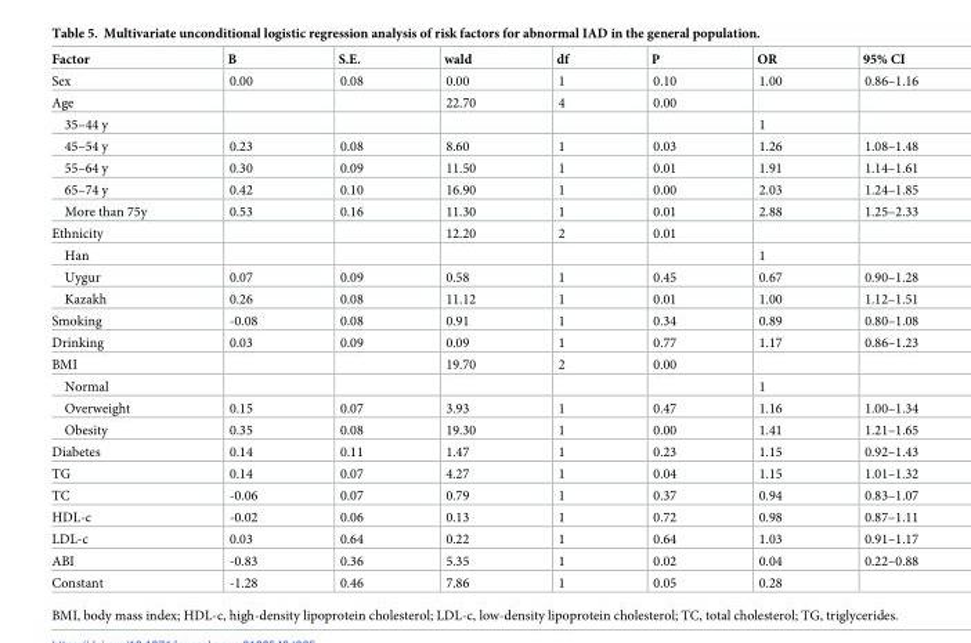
<table><thead><tr><td>Factor</td><td>B</td><td>S.E.</td><td>wald</td><td>df</td><td>P</td><td>OR</td><td>95% CI</td></tr></thead><tbody><tr><td>Sex</td><td>0.00</td><td>0.08</td><td>0.00</td><td>1</td><td>0.10</td><td>1.00</td><td>0.86–1.16</td></tr><tr><td>Age</td><td></td><td></td><td>22.70</td><td>4</td><td>0.00</td><td></td><td></td></tr><tr><td>35–44 y</td><td></td><td></td><td></td><td></td><td></td><td>1</td><td></td></tr><tr><td>45–54 y</td><td>0.23</td><td>0.08</td><td>8.60</td><td>1</td><td>0.03</td><td>1.26</td><td>1.08–1.48</td></tr><tr><td>55–64 y</td><td>0.30</td><td>0.09</td><td>11.50</td><td>1</td><td>0.01</td><td>1.91</td><td>1.14–1.61</td></tr><tr><td>65–74 y</td><td>0.42</td><td>0.10</td><td>16.90</td><td>1</td><td>0.00</td><td>2.03</td><td>1.24–1.85</td></tr><tr><td>More than 75y</td><td>0.53</td><td>0.16</td><td>11.30</td><td>1</td><td>0.01</td><td>2.88</td><td>1.25–2.33</td></tr><tr><td>Ethnicity</td><td></td><td></td><td>12.20</td><td>2</td><td>0.01</td><td></td><td></td></tr><tr><td>Han</td><td></td><td></td><td></td><td></td><td></td><td>1</td><td></td></tr><tr><td>Uygur</td><td>0.07</td><td>0.09</td><td>0.58</td><td>1</td><td>0.45</td><td>0.67</td><td>0.90–1.28</td></tr><tr><td>Kazakh</td><td>0.26</td><td>0.08</td><td>11.12</td><td>1</td><td>0.01</td><td>1.00</td><td>1.12–1.51</td></tr><tr><td>Smoking</td><td>-0.08</td><td>0.08</td><td>0.91</td><td>1</td><td>0.34</td><td>0.89</td><td>0.80–1.08</td></tr><tr><td>Drinking</td><td>0.03</td><td>0.09</td><td>0.09</td><td>1</td><td>0.77</td><td>1.17</td><td>0.86–1.23</td></tr><tr><td>BMI</td><td></td><td></td><td>19.70</td><td>2</td><td>0.00</td><td></td><td></td></tr><tr><td>Normal</td><td></td><td></td><td></td><td></td><td></td><td>1</td><td></td></tr><tr><td>Overweight</td><td>0.15</td><td>0.07</td><td>3.93</td><td>1</td><td>0.47</td><td>1.16</td><td>1.00–1.34</td></tr><tr><td>Obesity</td><td>0.35</td><td>0.08</td><td>19.30</td><td>1</td><td>0.00</td><td>1.41</td><td>1.21–1.65</td></tr><tr><td>Diabetes</td><td>0.14</td><td>0.11</td><td>1.47</td><td>1</td><td>0.23</td><td>1.15</td><td>0.92–1.43</td></tr><tr><td>TG</td><td>0.14</td><td>0.07</td><td>4.27</td><td>1</td><td>0.04</td><td>1.15</td><td>1.01–1.32</td></tr><tr><td>TC</td><td>-0.06</td><td>0.07</td><td>0.79</td><td>1</td><td>0.37</td><td>0.94</td><td>0.83–1.07</td></tr><tr><td>HDL-c</td><td>-0.02</td><td>0.06</td><td>0.13</td><td>1</td><td>0.72</td><td>0.98</td><td>0.87–1.11</td></tr><tr><td>LDL-c</td><td>0.03</td><td>0.64</td><td>0.22</td><td>1</td><td>0.64</td><td>1.03</td><td>0.91–1.17</td></tr><tr><td>ABI</td><td>-0.83</td><td>0.36</td><td>5.35</td><td>1</td><td>0.02</td><td>0.04</td><td>0.22–0.88</td></tr><tr><td>Constant</td><td>-1.28</td><td>0.46</td><td>7.86</td><td>1</td><td>0.05</td><td>0.28</td><td></td></tr></tbody></table>